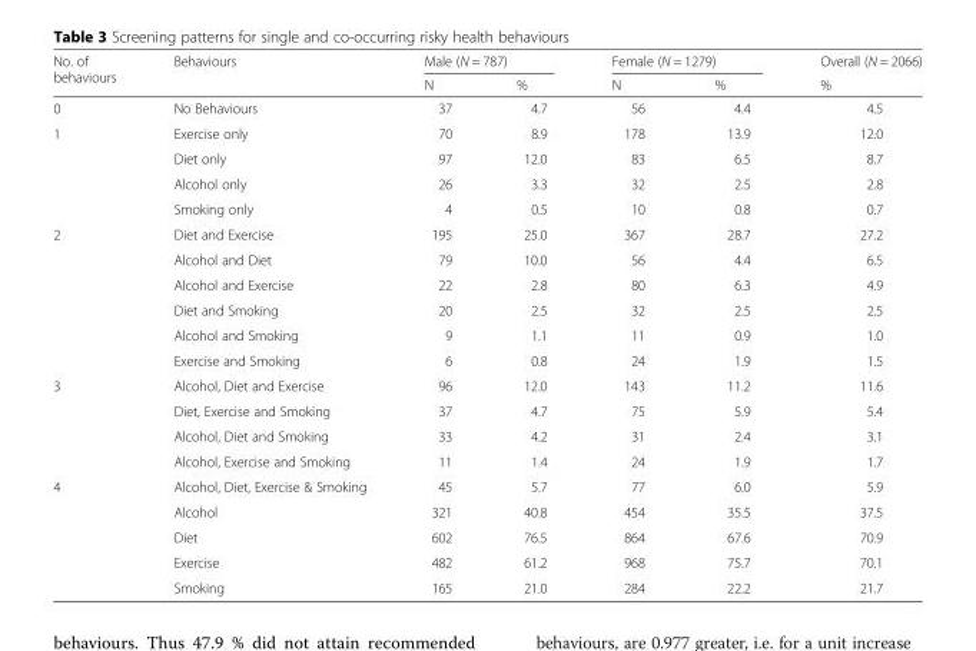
<table><thead><tr><td rowspan="2">No. of behaviours</td><td rowspan="2">Behaviours</td><td colspan="2">Male (N = 787)</td><td colspan="2">Female (N = 1279)</td><td rowspan="2">Overall (N = 2066) %</td></tr><tr><td>N</td><td>%</td><td>N</td><td>%</td></tr></thead><tbody><tr><td>0</td><td>No Behaviours</td><td>37</td><td>4.7</td><td>56</td><td>4.4</td><td>4.5</td></tr><tr><td rowspan="4">1</td><td>Exercise only</td><td>70</td><td>8.9</td><td>178</td><td>13.9</td><td>12.0</td></tr><tr><td>Diet only</td><td>97</td><td>12.0</td><td>83</td><td>6.5</td><td>8.7</td></tr><tr><td>Alcohol only</td><td>26</td><td>3.3</td><td>32</td><td>2.5</td><td>2.8</td></tr><tr><td>Smoking only</td><td>4</td><td>0.5</td><td>10</td><td>0.8</td><td>0.7</td></tr><tr><td rowspan="6">2</td><td>Diet and Exercise</td><td>195</td><td>25.0</td><td>367</td><td>28.7</td><td>27.2</td></tr><tr><td>Alcohol and Diet</td><td>79</td><td>10.0</td><td>56</td><td>4.4</td><td>6.5</td></tr><tr><td>Alcohol and Exercise</td><td>22</td><td>2.8</td><td>80</td><td>6.3</td><td>4.9</td></tr><tr><td>Diet and Smoking</td><td>20</td><td>2.5</td><td>32</td><td>2.5</td><td>2.5</td></tr><tr><td>Alcohol and Smoking</td><td>9</td><td>1.1</td><td>11</td><td>0.9</td><td>1.0</td></tr><tr><td>Exercise and Smoking</td><td>6</td><td>0.8</td><td>24</td><td>1.9</td><td>1.5</td></tr><tr><td rowspan="4">3</td><td>Alcohol, Diet and Exercise</td><td>96</td><td>12.0</td><td>143</td><td>11.2</td><td>11.6</td></tr><tr><td>Diet, Exercise and Smoking</td><td>37</td><td>4.7</td><td>75</td><td>5.9</td><td>5.4</td></tr><tr><td>Alcohol, Diet and Smoking</td><td>33</td><td>4.2</td><td>31</td><td>2.4</td><td>3.1</td></tr><tr><td>Alcohol, Exercise and Smoking</td><td>11</td><td>1.4</td><td>24</td><td>1.9</td><td>1.7</td></tr><tr><td rowspan="5">4</td><td>Alcohol, Diet, Exercise &amp; Smoking</td><td>45</td><td>5.7</td><td>77</td><td>6.0</td><td>5.9</td></tr><tr><td>Alcohol</td><td>321</td><td>40.8</td><td>454</td><td>35.5</td><td>37.5</td></tr><tr><td>Diet</td><td>602</td><td>76.5</td><td>864</td><td>67.6</td><td>70.9</td></tr><tr><td>Exercise</td><td>482</td><td>61.2</td><td>968</td><td>75.7</td><td>70.1</td></tr><tr><td>Smoking</td><td>165</td><td>21.0</td><td>284</td><td>22.2</td><td>21.7</td></tr></tbody></table>